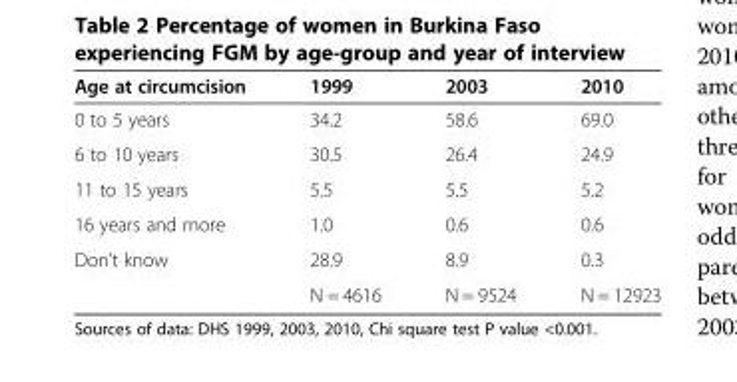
<table><thead><tr><td>Age at circumcision</td><td>1999</td><td>2003</td><td>2010</td></tr></thead><tbody><tr><td>0 to 5 years</td><td>34.2</td><td>58.6</td><td>69.0</td></tr><tr><td>6 to 10 years</td><td>30.5</td><td>26.4</td><td>24.9</td></tr><tr><td>11 to 15 years</td><td>5.5</td><td>5.5</td><td>5.2</td></tr><tr><td>16 years and more</td><td>1.0</td><td>0.6</td><td>0.6</td></tr><tr><td rowspan="2">Don’t know</td><td>28.9</td><td>8.9</td><td>0.3</td></tr><tr><td>N = 4616</td><td>N = 9524</td><td>N = 12923</td></tr></tbody></table>